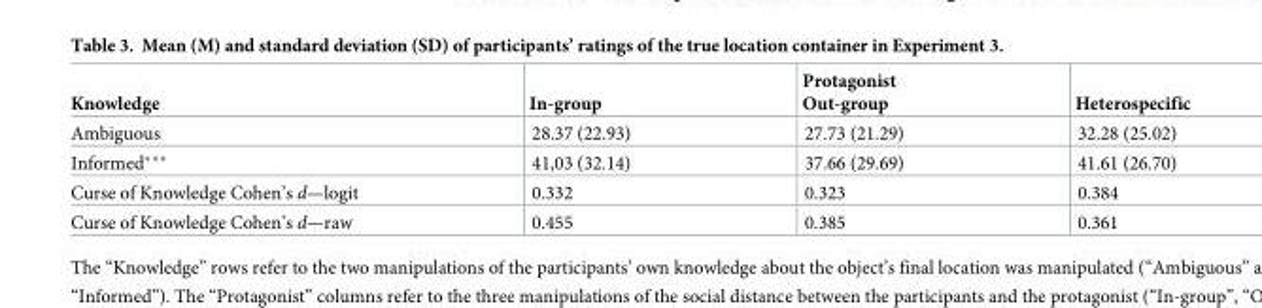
<table><thead><tr><td>Knowledge</td><td>In-group</td><td>Protagonist Out-group</td><td>Heterospecific</td></tr></thead><tbody><tr><td>Ambiguous</td><td>28.37 (22.93)</td><td>27.73 (21.29)</td><td>32.28 (25.02)</td></tr><tr><td>Informed***</td><td>41,03 (32.14)</td><td>37.66 (29.69)</td><td>41.61 (26.70)</td></tr><tr><td>Curse of Knowledge Cohen’s d—logit</td><td>0.332</td><td>0.323</td><td>0.384</td></tr><tr><td>Curse of Knowledge Cohen’s d—raw</td><td>0.455</td><td>0.385</td><td>0.361</td></tr></tbody></table>